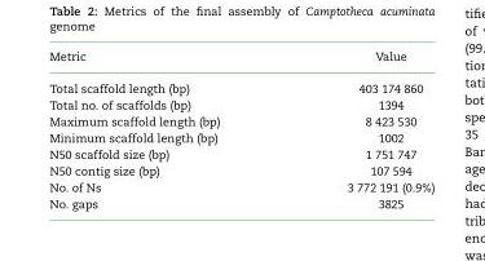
<table><thead><tr><td>Metric</td><td>Value</td></tr></thead><tbody><tr><td>Total scaffold length (bp)</td><td>403 174 860</td></tr><tr><td>Total no. of scaffolds (bp)</td><td>1394</td></tr><tr><td>Maximum scaffold length (bp)</td><td>8 423 530</td></tr><tr><td>Minimum scaffold length (bp)</td><td>1002</td></tr><tr><td>N50 scaffold size (bp)</td><td>1 751 747</td></tr><tr><td>N50 contig size (bp)</td><td>107 594</td></tr><tr><td>No. of Ns</td><td>3 772 191 (0.9%)</td></tr><tr><td>No. gaps</td><td>3825</td></tr></tbody></table>